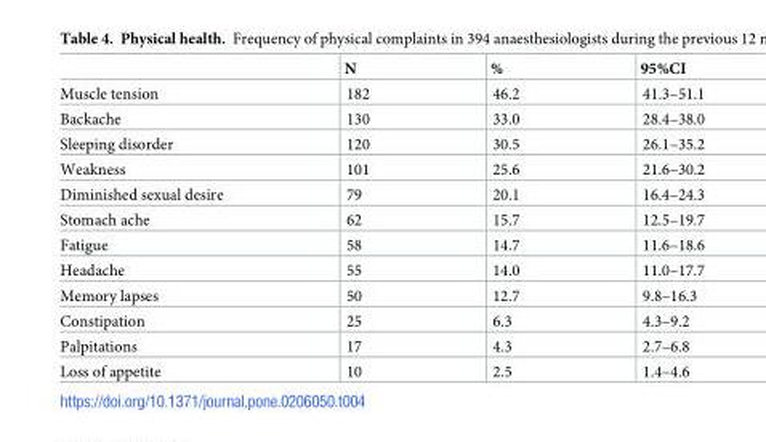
<table><thead><tr><td></td><td>N</td><td>%</td><td>95%CI</td></tr></thead><tbody><tr><td>Muscle tension</td><td>182</td><td>46.2</td><td>41.3–51.1</td></tr><tr><td>Backache</td><td>130</td><td>33.0</td><td>28.4–38.0</td></tr><tr><td>Sleeping disorder</td><td>120</td><td>30.5</td><td>26.1–35.2</td></tr><tr><td>Weakness</td><td>101</td><td>25.6</td><td>21.6–30.2</td></tr><tr><td>Diminished sexual desire</td><td>79</td><td>20.1</td><td>16.4–24.3</td></tr><tr><td>Stomach ache</td><td>62</td><td>15.7</td><td>12.5–19.7</td></tr><tr><td>Fatigue</td><td>58</td><td>14.7</td><td>11.6–18.6</td></tr><tr><td>Headache</td><td>55</td><td>14.0</td><td>11.0–17.7</td></tr><tr><td>Memory lapses</td><td>50</td><td>12.7</td><td>9.8–16.3</td></tr><tr><td>Constipation</td><td>25</td><td>6.3</td><td>4.3–9.2</td></tr><tr><td>Palpitations</td><td>17</td><td>4.3</td><td>2.7–6.8</td></tr><tr><td>Loss of appetite</td><td>10</td><td>2.5</td><td>1.4–4.6</td></tr></tbody></table>